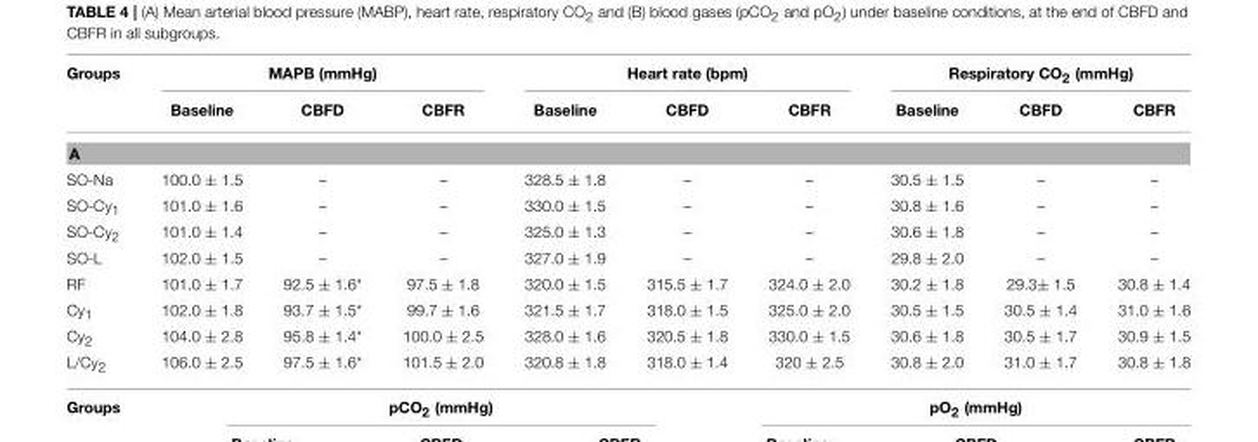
<table><thead><tr><td rowspan="2">Groups</td><td colspan="3">MAPB (mmHg)</td><td colspan="3">Heart rate (bpm)</td><td colspan="3">Respiratory CO<sub>2</sub> (mmHg)</td></tr><tr><td>Baseline</td><td>CBFD</td><td>CBFR</td><td>Baseline</td><td>CBFD</td><td>CBFR</td><td>Baseline</td><td>CBFD</td><td>CBFR</td></tr></thead><tbody><tr><td colspan="10">A</td></tr><tr><td>SO-Na</td><td>100.0 ± 1.5</td><td>–</td><td>–</td><td>328.5 ± 1.8</td><td>–</td><td>–</td><td>30.5 ± 1.5</td><td>–</td><td>–</td></tr><tr><td>SO-Cy<sub>1</sub></td><td>101.0 ± 1.6</td><td>–</td><td>–</td><td>330.0 ± 1.5</td><td>–</td><td>–</td><td>30.8 ± 1.6</td><td>–</td><td>–</td></tr><tr><td>SO-Cy<sub>2</sub></td><td>101.0 ± 1.4</td><td>–</td><td>–</td><td>325.0 ± 1.3</td><td>–</td><td>–</td><td>30.6 ± 1.8</td><td>–</td><td>–</td></tr><tr><td>SO-L</td><td>102.0 ± 1.5</td><td>–</td><td>–</td><td>327.0 ± 1.9</td><td>–</td><td>–</td><td>29.8 ± 2.0</td><td>–</td><td>–</td></tr><tr><td>RF</td><td>101.0 ± 1.7</td><td>92.5 ± 1.6*</td><td>97.5 ± 1.8</td><td>320.0 ± 1.5</td><td>315.5 ± 1.7</td><td>324.0 ± 2.0</td><td>30.2 ± 1.8</td><td>29.3± 1.5</td><td>30.8 ± 1.4</td></tr><tr><td>Cy<sub>1</sub></td><td>102.0 ± 1.8</td><td>93.7 ± 1.5*</td><td>99.7 ± 1.6</td><td>321.5 ± 1.7</td><td>318.0 ± 1.5</td><td>325.0 ± 2.0</td><td>30.5 ± 1.5</td><td>30.5 ± 1.4</td><td>31.0 ± 1.6</td></tr><tr><td>Cy<sub>2</sub></td><td>104.0 ± 2.8</td><td>95.8 ± 1.4*</td><td>100.0 ± 2.5</td><td>328.0 ± 1.6</td><td>320.5 ± 1.8</td><td>330.0 ± 1.5</td><td>30.6 ± 1.8</td><td>30.5 ± 1.7</td><td>30.9 ± 1.5</td></tr><tr><td>L/Cy<sub>2</sub></td><td>106.0 ± 2.5</td><td>97.5 ± 1.6*</td><td>101.5 ± 2.0</td><td>320.8 ± 1.8</td><td>318.0 ± 1.4</td><td>320 ± 2.5</td><td>30.8 ± 2.0</td><td>31.0 ± 1.7</td><td>30.8 ± 1.8</td></tr></tbody></table>